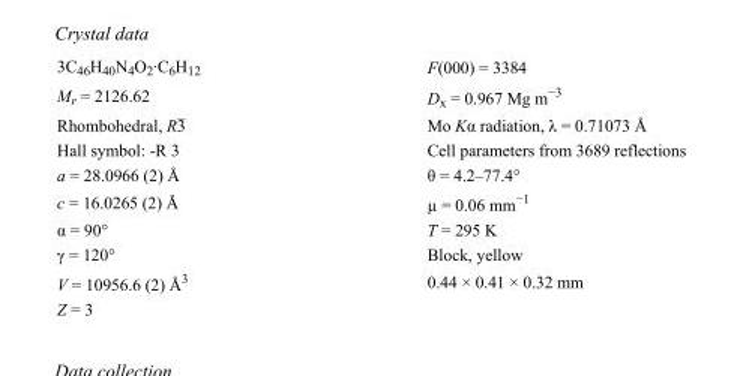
<table><tbody><tr><td>3C<sub>46</sub>H<sub>40</sub>N<sub>4</sub>O<sub>2</sub>·C<sub>6</sub>H<sub>12</sub></td><td>F(000) = 3384</td></tr><tr><td>M<sub>r</sub> = 2126.62</td><td>D<sub>x</sub> = 0.967 Mg m<sup>−3</sup></td></tr><tr><td>Rhombohedral, R3</td><td>Mo Kα radiation, λ = 0.71073 Å</td></tr><tr><td>Hall symbol: -R 3</td><td>Cell parameters from 3689 reflections</td></tr><tr><td>a = 28.0966 (2) Å</td><td>θ = 4.2–77.4°</td></tr><tr><td>c = 16.0265 (2) Å</td><td>µ = 0.06 mm<sup>−1</sup></td></tr><tr><td>α = 90°</td><td>T = 295 K</td></tr><tr><td>γ = 120°</td><td>Block, yellow</td></tr><tr><td>V = 10956.6 (2) Å<sup>3</sup></td><td>0.44 × 0.41 × 0.32 mm</td></tr><tr><td>Z = 3</td><td></td></tr></tbody></table>